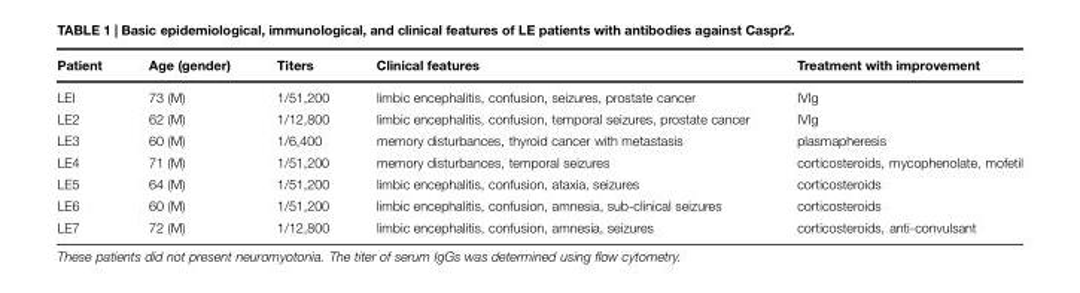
<table><thead><tr><td>Patient</td><td>Age (gender)</td><td>Titers</td><td>Clinical features</td><td>Treatment with improvement</td></tr></thead><tbody><tr><td>LEI</td><td>73 (M)</td><td>1/51,200</td><td>limbic encephalitis, confusion, seizures, prostate cancer</td><td>IVIg</td></tr><tr><td>LE2</td><td>62 (M)</td><td>1/12,800</td><td>limbic encephalitis, confusion, temporal seizures, prostate cancer</td><td>IVIg</td></tr><tr><td>LE3</td><td>60 (M)</td><td>1/6,400</td><td>memory disturbances, thyroid cancer with metastasis</td><td>plasmapheresis</td></tr><tr><td>LE4</td><td>71 (M)</td><td>1/51,200</td><td>memory disturbances, temporal seizures</td><td>corticosteroids, mycophenolate, mofetil</td></tr><tr><td>LE5</td><td>64 (M)</td><td>1/51,200</td><td>limbic encephalitis, confusion, ataxia, seizures</td><td>corticosteroids</td></tr><tr><td>LE6</td><td>60 (M)</td><td>1/51,200</td><td>limbic encephalitis, confusion, amnesia, sub-clinical seizures</td><td>corticosteroids</td></tr><tr><td>LE7</td><td>72 (M)</td><td>1/12,800</td><td>limbic encephalitis, confusion, amnesia, seizures</td><td>corticosteroids, anti-convulsant</td></tr></tbody></table>